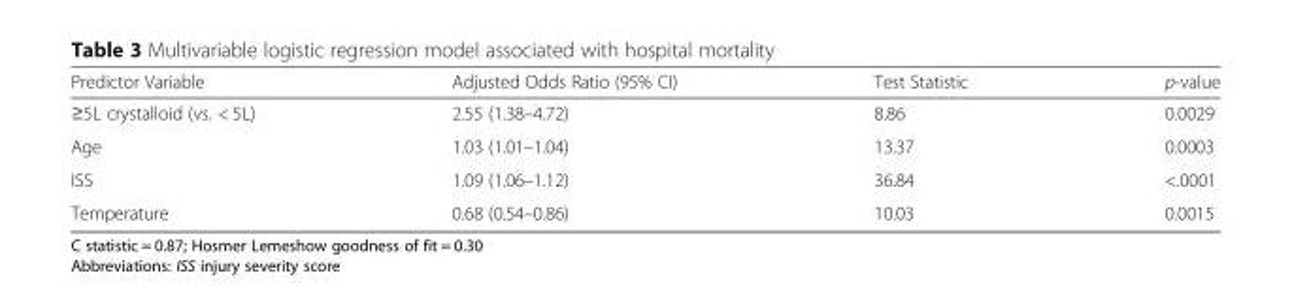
<table><thead><tr><td>Predictor Variable</td><td>Adjusted Odds Ratio (95% CI)</td><td>Test Statistic</td><td>p-value</td></tr></thead><tbody><tr><td>≥5L crystalloid (vs. &lt; 5L)</td><td>2.55 (1.38–4.72)</td><td>8.86</td><td>0.0029</td></tr><tr><td>Age</td><td>1.03 (1.01–1.04)</td><td>13.37</td><td>0.0003</td></tr><tr><td>ISS</td><td>1.09 (1.06–1.12)</td><td>36.84</td><td>&lt;.0001</td></tr><tr><td>Temperature</td><td>0.68 (0.54–0.86)</td><td>10.03</td><td>0.0015</td></tr></tbody></table>